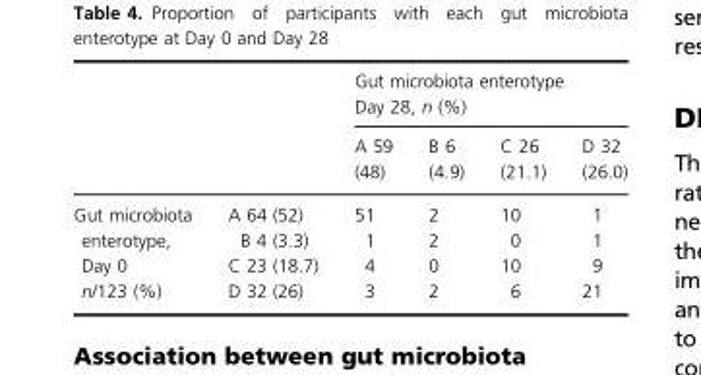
<table><thead><tr><td rowspan="2"></td><td rowspan="2"></td><td colspan="4">Gut microbiota enterotype Day 28, n (%)</td></tr><tr><td>A 59 (48)</td><td>B 6 (4.9)</td><td>C 26 (21.1)</td><td>D 32 (26.0)</td></tr></thead><tbody><tr><td rowspan="4">Gut microbiota enterotype, Day 0 n/123 (%)</td><td>A 64 (52)</td><td>51</td><td>2</td><td>10</td><td>1</td></tr><tr><td>B 4 (3.3)</td><td>1</td><td>2</td><td>0</td><td>1</td></tr><tr><td>C 23 (18.7)</td><td>4</td><td>0</td><td>10</td><td>9</td></tr><tr><td>D 32 (26)</td><td>3</td><td>2</td><td>6</td><td>21</td></tr></tbody></table>